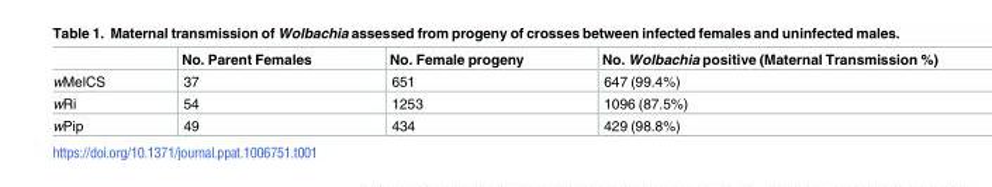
<table><thead><tr><td></td><td>No. Parent Females</td><td>No. Female progeny</td><td>No. Wolbachia positive (Maternal Transmission %)</td></tr></thead><tbody><tr><td>wMelCS</td><td>37</td><td>651</td><td>647 (99.4%)</td></tr><tr><td>wRi</td><td>54</td><td>1253</td><td>1096 (87.5%)</td></tr><tr><td>wPip</td><td>49</td><td>434</td><td>429 (98.8%)</td></tr></tbody></table>